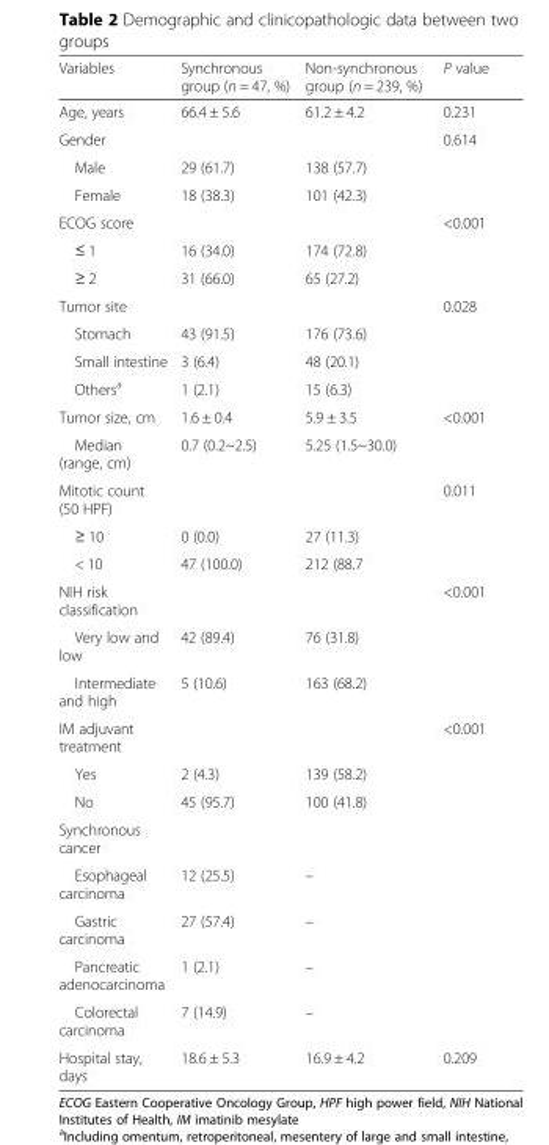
<table><thead><tr><td>Variables</td><td>Synchronous group (n = 47, %)</td><td>Non-synchronous group (n = 239, %)</td><td>P value</td></tr></thead><tbody><tr><td>Age, years</td><td>66.4 ± 5.6</td><td>61.2 ± 4.2</td><td>0.231</td></tr><tr><td>Gender</td><td></td><td></td><td>0.614</td></tr><tr><td>Male</td><td>29 (61.7)</td><td>138 (57.7)</td><td></td></tr><tr><td>Female</td><td>18 (38.3)</td><td>101 (42.3)</td><td></td></tr><tr><td>ECOG score</td><td></td><td></td><td>&lt;0.001</td></tr><tr><td>≤ 1</td><td>16 (34.0)</td><td>174 (72.8)</td><td></td></tr><tr><td>≥ 2</td><td>31 (66.0)</td><td>65 (27.2)</td><td></td></tr><tr><td>Tumor site</td><td></td><td></td><td>0.028</td></tr><tr><td>Stomach</td><td>43 (91.5)</td><td>176 (73.6)</td><td></td></tr><tr><td>Small intestine</td><td>3 (6.4)</td><td>48 (20.1)</td><td></td></tr><tr><td>Others<sup>a</sup></td><td>1 (2.1)</td><td>15 (6.3)</td><td></td></tr><tr><td>Tumor size, cm</td><td>1.6 ± 0.4</td><td>5.9 ± 3.5</td><td>&lt;0.001</td></tr><tr><td>Median (range, cm)</td><td>0.7 (0.2~2.5)</td><td>5.25 (1.5~30.0)</td><td></td></tr><tr><td>Mitotic count (50 HPF)</td><td></td><td></td><td>0.011</td></tr><tr><td>≥ 10</td><td>0 (0.0)</td><td>27 (11.3)</td><td></td></tr><tr><td>&lt; 10</td><td>47 (100.0)</td><td>212 (88.7</td><td></td></tr><tr><td>NIH risk classification</td><td></td><td></td><td>&lt;0.001</td></tr><tr><td>Very low and low</td><td>42 (89.4)</td><td>76 (31.8)</td><td></td></tr><tr><td>Intermediate and high</td><td>5 (10.6)</td><td>163 (68.2)</td><td></td></tr><tr><td>IM adjuvant treatment</td><td></td><td></td><td>&lt;0.001</td></tr><tr><td>Yes</td><td>2 (4.3)</td><td>139 (58.2)</td><td></td></tr><tr><td>No</td><td>45 (95.7)</td><td>100 (41.8)</td><td></td></tr><tr><td colspan="4">Synchronous cancer</td></tr><tr><td>Esophageal carcinoma</td><td>12 (25.5)</td><td>–</td><td></td></tr><tr><td>Gastric carcinoma</td><td>27 (57.4)</td><td>–</td><td></td></tr><tr><td>Pancreatic adenocarcinoma</td><td>1 (2.1)</td><td>–</td><td></td></tr><tr><td>Colorectal carcinoma</td><td>7 (14.9)</td><td>–</td><td></td></tr><tr><td>Hospital stay, days</td><td>18.6 ± 5.3</td><td>16.9 ± 4.2</td><td>0.209</td></tr></tbody></table>